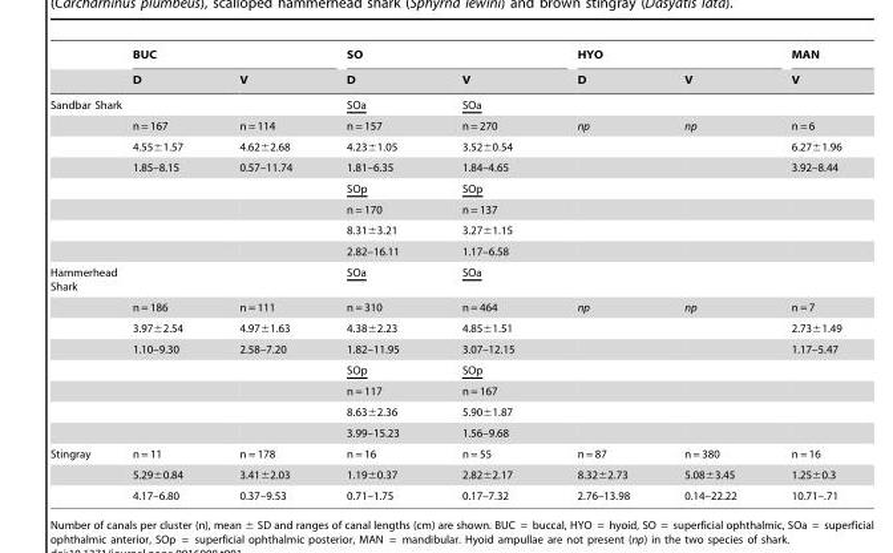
<table><thead><tr><td rowspan="2"></td><td colspan="2">BUC</td><td colspan="2">SO</td><td colspan="2">HYO</td><td rowspan="2">MAN V</td></tr><tr><td>D</td><td>V</td><td>D</td><td>V</td><td>D</td><td>V</td></tr></thead><tbody><tr><td rowspan="8">Sandbar Shark</td><td></td><td></td><td>SOa</td><td>SOa</td><td></td><td></td><td></td></tr><tr><td>n = 167</td><td>n = 114</td><td>n = 157</td><td>n = 270</td><td>np</td><td>np</td><td>n = 6</td></tr><tr><td>4.55±1.57</td><td>4.62±2.68</td><td>4.23±1.05</td><td>3.52±0.54</td><td></td><td></td><td>6.27±1.96</td></tr><tr><td>1.85–8.15</td><td>0.57–11.74</td><td>1.81–6.35</td><td>1.84–4.65</td><td></td><td></td><td>3.92–8.44</td></tr><tr><td></td><td></td><td>SOp</td><td>SOp</td><td></td><td></td><td></td></tr><tr><td></td><td></td><td>n = 170</td><td>n = 137</td><td></td><td></td><td></td></tr><tr><td></td><td></td><td>8.31±3.21</td><td>3.27±1.15</td><td></td><td></td><td></td></tr><tr><td></td><td></td><td>2.82–16.11</td><td>1.17–6.58</td><td></td><td></td><td></td></tr><tr><td rowspan="8">Hammerhead Shark</td><td></td><td></td><td>SOa</td><td>SOa</td><td></td><td></td><td></td></tr><tr><td>n = 186</td><td>n = 111</td><td>n = 310</td><td>n = 464</td><td>np</td><td>np</td><td>n = 7</td></tr><tr><td>3.97±2.54</td><td>4.97±1.63</td><td>4.38±2.23</td><td>4.85±1.51</td><td></td><td></td><td>2.73±1.49</td></tr><tr><td>1.10–9.30</td><td>2.58–7.20</td><td>1.82–11.95</td><td>3.07–12.15</td><td></td><td></td><td>1.17–5.47</td></tr><tr><td></td><td></td><td>SOp</td><td>SOp</td><td></td><td></td><td></td></tr><tr><td></td><td></td><td>n = 117</td><td>n = 167</td><td></td><td></td><td></td></tr><tr><td></td><td></td><td>8.63±2.36</td><td>5.90±1.87</td><td></td><td></td><td></td></tr><tr><td></td><td></td><td>3.99–15.23</td><td>1.56–9.68</td><td></td><td></td><td></td></tr><tr><td rowspan="3">Stingray</td><td>n = 11</td><td>n = 178</td><td>n = 16</td><td>n = 55</td><td>n = 87</td><td>n = 380</td><td>n = 16</td></tr><tr><td>5.29±0.84</td><td>3.41±2.03</td><td>1.19±0.37</td><td>2.82±2.17</td><td>8.32±2.73</td><td>5.08±3.45</td><td>1.25±0.3</td></tr><tr><td>4.17–6.80</td><td>0.37–9.53</td><td>0.71–1.75</td><td>0.17–7.32</td><td>2.76–13.98</td><td>0.14–22.22</td><td>10.71–.71</td></tr></tbody></table>